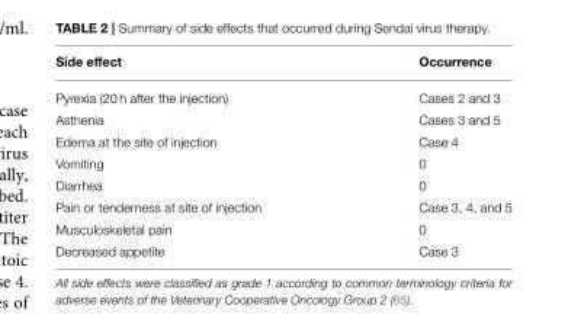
<table><thead><tr><td>Side effect</td><td>Occurrence</td></tr></thead><tbody><tr><td>Pyrexia (20 h after the injection)</td><td>Cases 2 and 3</td></tr><tr><td>Asthenia</td><td>Cases 3 and 5</td></tr><tr><td>Edema at the site of injection</td><td>Case 4</td></tr><tr><td>Vomiting</td><td>0</td></tr><tr><td>Diarrhea</td><td>0</td></tr><tr><td>Pain or tenderness at site of injection</td><td>Case 3, 4, and 5</td></tr><tr><td>Musculoskeletal pain</td><td>0</td></tr><tr><td>Decreased appetite</td><td>Case 3</td></tr></tbody></table>